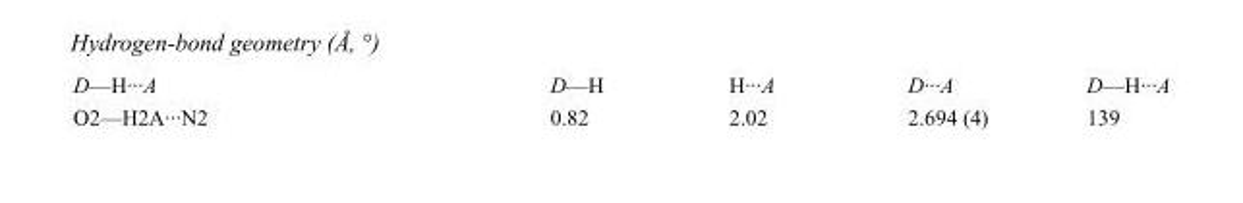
<table><tbody><tr><td>D—H···A</td><td>D—H</td><td>H···A</td><td>D···A</td><td>D—H···A</td></tr><tr><td>O2—H2A···N2</td><td>0.82</td><td>2.02</td><td>2.694 (4)</td><td>139</td></tr></tbody></table>